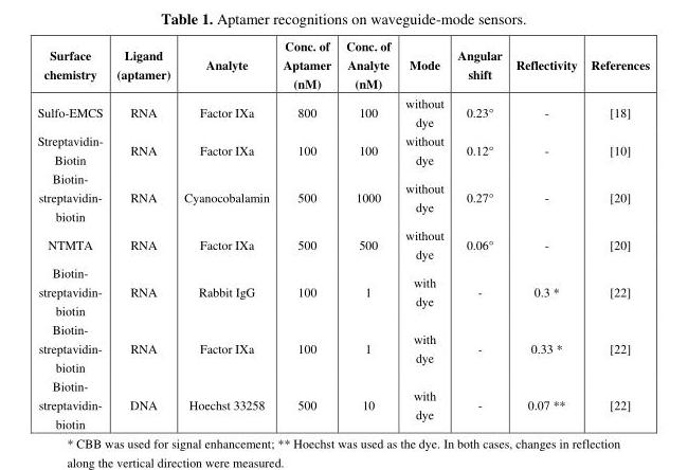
<table><thead><tr><td>Surface chemistry</td><td>Ligand (aptamer)</td><td>Analyte</td><td>Conc. of Aptamer (nM)</td><td>Conc. of Analyte (nM)</td><td>Mode</td><td>Angular shift</td><td>Reflectivity</td><td>References</td></tr></thead><tbody><tr><td>Sulfo-EMCS</td><td>RNA</td><td>Factor IXa</td><td>800</td><td>100</td><td>without dye</td><td>0.23°</td><td>-</td><td>[18]</td></tr><tr><td>Streptavidin- Biotin</td><td>RNA</td><td>Factor IXa</td><td>100</td><td>100</td><td>without dye</td><td>0.12°</td><td>-</td><td>[10]</td></tr><tr><td>Biotin- streptavidin- biotin</td><td>RNA</td><td>Cyanocobalamin</td><td>500</td><td>1000</td><td>without dye</td><td>0.27°</td><td>-</td><td>[20]</td></tr><tr><td>NTMTA</td><td>RNA</td><td>Factor IXa</td><td>500</td><td>500</td><td>without dye</td><td>0.06°</td><td>-</td><td>[20]</td></tr><tr><td>Biotin- streptavidin- biotin</td><td>RNA</td><td>Rabbit IgG</td><td>100</td><td>1</td><td>with dye</td><td>-</td><td>0.3 *</td><td>[22]</td></tr><tr><td>Biotin- streptavidin- biotin</td><td>RNA</td><td>Factor IXa</td><td>100</td><td>1</td><td>with dye</td><td>-</td><td>0.33 *</td><td>[22]</td></tr><tr><td>Biotin- streptavidin- biotin</td><td>DNA</td><td>Hoechst 33258</td><td>500</td><td>10</td><td>with dye</td><td>-</td><td>0.07 **</td><td>[22]</td></tr></tbody></table>